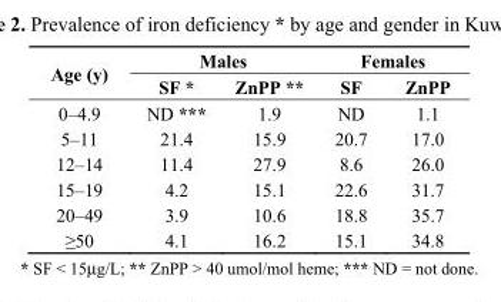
<table><thead><tr><td rowspan="2">Age (y)</td><td colspan="2">Males</td><td colspan="2">Females</td></tr><tr><td>SF *</td><td>ZnPP **</td><td>SF</td><td>ZnPP</td></tr></thead><tbody><tr><td>0–4.9</td><td>ND ***</td><td>1.9</td><td>ND</td><td>1.1</td></tr><tr><td>5–11</td><td>21.4</td><td>15.9</td><td>20.7</td><td>17.0</td></tr><tr><td>12–14</td><td>11.4</td><td>27.9</td><td>8.6</td><td>26.0</td></tr><tr><td>15–19</td><td>4.2</td><td>15.1</td><td>22.6</td><td>31.7</td></tr><tr><td>20–49</td><td>3.9</td><td>10.6</td><td>18.8</td><td>35.7</td></tr><tr><td>≥50</td><td>4.1</td><td>16.2</td><td>15.1</td><td>34.8</td></tr></tbody></table>